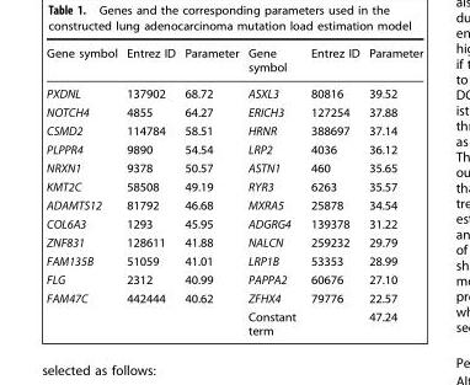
<table><thead><tr><td>Gene symbol</td><td>Entrez ID</td><td>Parameter</td><td>Gene symbol</td><td>Entrez ID</td><td>Parameter</td></tr></thead><tbody><tr><td>PXDNL</td><td>137902</td><td>68.72</td><td>ASXL3</td><td>80816</td><td>39.52</td></tr><tr><td>NOTCH4</td><td>4855</td><td>64.27</td><td>ERICH3</td><td>127254</td><td>37.88</td></tr><tr><td>CSMD2</td><td>114784</td><td>58.51</td><td>HRNR</td><td>388697</td><td>37.14</td></tr><tr><td>PLPPR4</td><td>9890</td><td>54.54</td><td>LRP2</td><td>4036</td><td>36.12</td></tr><tr><td>NRXN1</td><td>9378</td><td>50.57</td><td>ASTN1</td><td>460</td><td>35.65</td></tr><tr><td>KMT2C</td><td>58508</td><td>49.19</td><td>RYR3</td><td>6263</td><td>35.57</td></tr><tr><td>ADAMTS12</td><td>81792</td><td>46.68</td><td>MXRA5</td><td>25878</td><td>34.54</td></tr><tr><td>COL6A3</td><td>1293</td><td>45.95</td><td>ADGRG4</td><td>139378</td><td>31.22</td></tr><tr><td>ZNF831</td><td>128611</td><td>41.88</td><td>NALCN</td><td>259232</td><td>29.79</td></tr><tr><td>FAM135B</td><td>51059</td><td>41.01</td><td>LRP1B</td><td>53353</td><td>28.99</td></tr><tr><td>FLG</td><td>2312</td><td>40.99</td><td>PAPPA2</td><td>60676</td><td>27.10</td></tr><tr><td rowspan="2">FAM47C</td><td>442444</td><td>40.62</td><td>ZFHX4</td><td>79776</td><td>22.57</td></tr><tr><td></td><td></td><td>Constant term</td><td></td><td>47.24</td></tr></tbody></table>